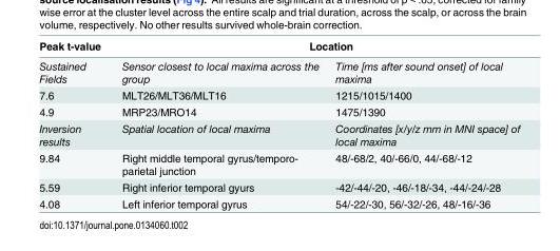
<table><thead><tr><td rowspan="2">Peak t-value Sustained Fields</td><td colspan="2">Location</td></tr><tr><td>Sensor closest to local maxima across the group</td><td>Time [ms after sound onset] of local maxima</td></tr></thead><tbody><tr><td>7.6</td><td>MLT26/MLT36/MLT16</td><td>1215/1015/1400</td></tr><tr><td>4.9</td><td>MRP23/MRO14</td><td>1475/1390</td></tr><tr><td>Inversion results</td><td>Spatial location of local maxima</td><td>Coordinates [x/y/z mm in MNI space] of local maxima</td></tr><tr><td>9.84</td><td>Right middle temporal gyrus/temporo- parietal junction</td><td>48/-68/2, 40/-66/0, 44/-68/-12</td></tr><tr><td>5.59</td><td>Right inferior temporal gyurs</td><td>-42/-44/-20, -46/-18/-34, -44/-24/-28</td></tr><tr><td>4.08</td><td>Left inferior temporal gyrus</td><td>54/-22/-30, 56/-32/-26, 48/-16/-36</td></tr></tbody></table>